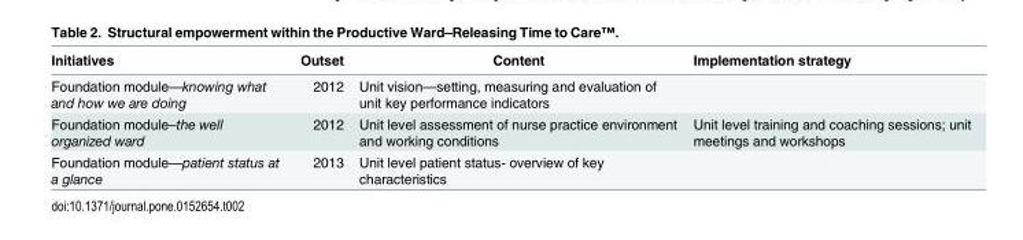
<table><thead><tr><td>Initiatives</td><td>Outset</td><td>Content</td><td>Implementation strategy</td></tr></thead><tbody><tr><td>Foundation module—knowing what and how we are doing</td><td>2012</td><td>Unit vision—setting, measuring and evaluation of unit key performance indicators</td><td></td></tr><tr><td>Foundation module–the well organized ward</td><td>2012</td><td>Unit level assessment of nurse practice environment and working conditions</td><td>Unit level training and coaching sessions; unit meetings and workshops</td></tr><tr><td>Foundation module—patient status at a glance</td><td>2013</td><td>Unit level patient status- overview of key characteristics</td><td></td></tr></tbody></table>